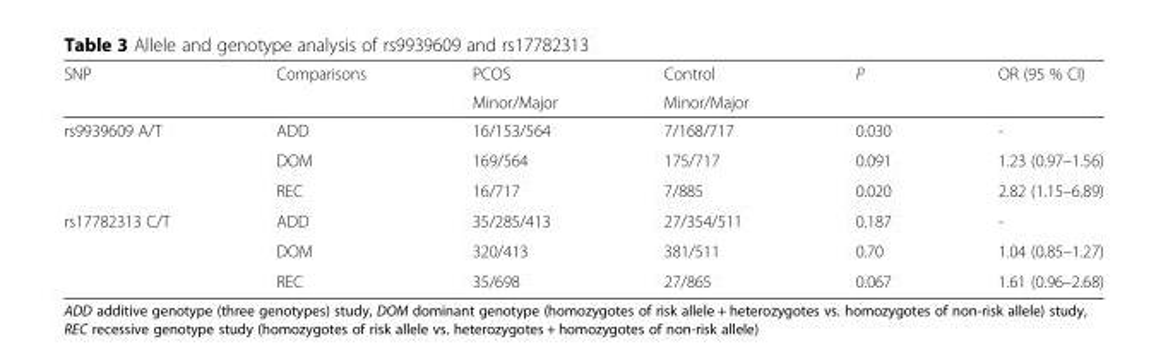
<table><thead><tr><td rowspan="2">SNP</td><td rowspan="2">Comparisons</td><td rowspan="2">PCOS Minor/Major</td><td rowspan="2">Control Minor/Major</td><td rowspan="2">P</td><td rowspan="2">OR (95 % CI)</td></tr><tr></tr></thead><tbody><tr><td rowspan="3">rs9939609 A/T</td><td>ADD</td><td>16/153/564</td><td>7/168/717</td><td>0.030</td><td>-</td></tr><tr><td>DOM</td><td>169/564</td><td>175/717</td><td>0.091</td><td>1.23 (0.97–1.56)</td></tr><tr><td>REC</td><td>16/717</td><td>7/885</td><td>0.020</td><td>2.82 (1.15–6.89)</td></tr><tr><td rowspan="3">rs17782313 C/T</td><td>ADD</td><td>35/285/413</td><td>27/354/511</td><td>0.187</td><td>-</td></tr><tr><td>DOM</td><td>320/413</td><td>381/511</td><td>0.70</td><td>1.04 (0.85–1.27)</td></tr><tr><td>REC</td><td>35/698</td><td>27/865</td><td>0.067</td><td>1.61 (0.96–2.68)</td></tr></tbody></table>